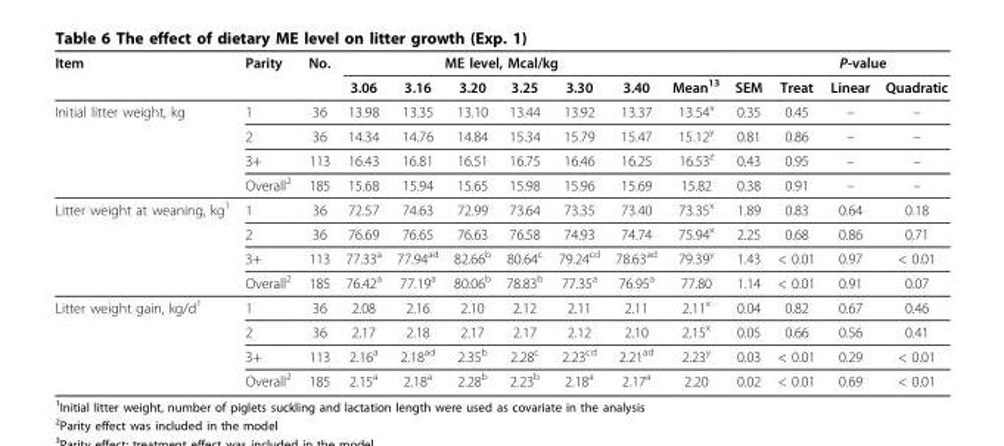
<table><thead><tr><td rowspan="2">Item</td><td rowspan="2">Parity</td><td rowspan="2">No.</td><td colspan="6">ME level, Mcal/kg</td><td rowspan="2">Mean<sup>13</sup></td><td rowspan="2">SEM</td><td colspan="3">P-value</td></tr><tr><td>3.06</td><td>3.16</td><td>3.20</td><td>3.25</td><td>3.30</td><td>3.40</td><td>Treat</td><td>Linear</td><td>Quadratic</td></tr></thead><tbody><tr><td rowspan="4">Initial litter weight, kg</td><td>1</td><td>36</td><td>13.98</td><td>13.35</td><td>13.10</td><td>13.44</td><td>13.92</td><td>13.37</td><td>13.54<sup>x</sup></td><td>0.35</td><td>0.45</td><td>–</td><td>–</td></tr><tr><td>2</td><td>36</td><td>14.34</td><td>14.76</td><td>14.84</td><td>15.34</td><td>15.79</td><td>15.47</td><td>15.12<sup>y</sup></td><td>0.81</td><td>0.86</td><td>–</td><td>–</td></tr><tr><td>3+</td><td>113</td><td>16.43</td><td>16.81</td><td>16.51</td><td>16.75</td><td>16.46</td><td>16.25</td><td>16.53<sup>z</sup></td><td>0.43</td><td>0.95</td><td>–</td><td>–</td></tr><tr><td>Overall<sup>2</sup></td><td>185</td><td>15.68</td><td>15.94</td><td>15.65</td><td>15.98</td><td>15.96</td><td>15.69</td><td>15.82</td><td>0.38</td><td>0.91</td><td>–</td><td>–</td></tr><tr><td rowspan="4">Litter weight at weaning, kg<sup>1</sup></td><td>1</td><td>36</td><td>72.57</td><td>74.63</td><td>72.99</td><td>73.64</td><td>73.35</td><td>73.40</td><td>73.35<sup>x</sup></td><td>1.89</td><td>0.83</td><td>0.64</td><td>0.18</td></tr><tr><td>2</td><td>36</td><td>76.69</td><td>76.65</td><td>76.63</td><td>76.58</td><td>74.93</td><td>74.74</td><td>75.94<sup>x</sup></td><td>2.25</td><td>0.68</td><td>0.86</td><td>0.71</td></tr><tr><td>3+</td><td>113</td><td>77.33<sup>a</sup></td><td>77.94<sup>ad</sup></td><td>82.66<sup>b</sup></td><td>80.64<sup>c</sup></td><td>79.24<sup>cd</sup></td><td>78.63<sup>ad</sup></td><td>79.39<sup>y</sup></td><td>1.43</td><td>&lt; 0.01</td><td>0.97</td><td>&lt; 0.01</td></tr><tr><td>Overall<sup>2</sup></td><td>185</td><td>76.42<sup>a</sup></td><td>77.19<sup>a</sup></td><td>80.06<sup>b</sup></td><td>78.83<sup>b</sup></td><td>77.35<sup>a</sup></td><td>76.95<sup>a</sup></td><td>77.80</td><td>1.14</td><td>&lt; 0.01</td><td>0.91</td><td>0.07</td></tr><tr><td rowspan="4">Litter weight gain, kg/d<sup>1</sup></td><td>1</td><td>36</td><td>2.08</td><td>2.16</td><td>2.10</td><td>2.12</td><td>2.11</td><td>2.11</td><td>2.11<sup>x</sup></td><td>0.04</td><td>0.82</td><td>0.67</td><td>0.46</td></tr><tr><td>2</td><td>36</td><td>2.17</td><td>2.18</td><td>2.17</td><td>2.17</td><td>2.12</td><td>2.10</td><td>2.15<sup>x</sup></td><td>0.05</td><td>0.66</td><td>0.56</td><td>0.41</td></tr><tr><td>3+</td><td>113</td><td>2.16<sup>a</sup></td><td>2.18<sup>ad</sup></td><td>2.35<sup>b</sup></td><td>2.28<sup>c</sup></td><td>2.23<sup>cd</sup></td><td>2.21<sup>ad</sup></td><td>2.23<sup>y</sup></td><td>0.03</td><td>&lt; 0.01</td><td>0.29</td><td>&lt; 0.01</td></tr><tr><td>Overall<sup>2</sup></td><td>185</td><td>2.15<sup>a</sup></td><td>2.18<sup>a</sup></td><td>2.28<sup>b</sup></td><td>2.23<sup>b</sup></td><td>2.18<sup>a</sup></td><td>2.17<sup>a</sup></td><td>2.20</td><td>0.02</td><td>&lt; 0.01</td><td>0.69</td><td>&lt; 0.01</td></tr></tbody></table>